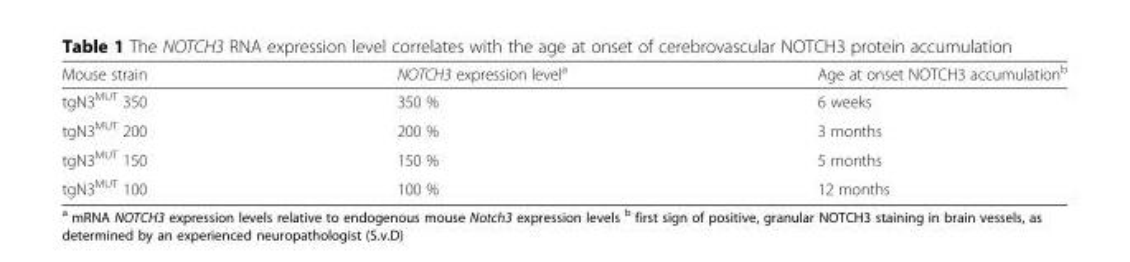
<table><thead><tr><td>Mouse strain</td><td>NOTCH3 expression level<sup>a</sup></td><td>Age at onset NOTCH3 accumulation<sup>b</sup></td></tr></thead><tbody><tr><td>tgN3<sup>MUT</sup> 350</td><td>350 %</td><td>6 weeks</td></tr><tr><td>tgN3<sup>MUT</sup> 200</td><td>200 %</td><td>3 months</td></tr><tr><td>tgN3<sup>MUT</sup> 150</td><td>150 %</td><td>5 months</td></tr><tr><td>tgN3<sup>MUT</sup> 100</td><td>100 %</td><td>12 months</td></tr></tbody></table>